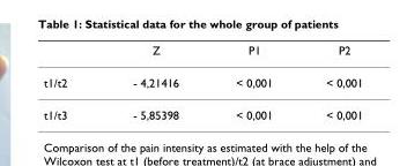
<table><thead><tr><td></td><td>Z</td><td>P1</td><td>P2</td></tr></thead><tbody><tr><td>t1/t2</td><td>- 4,21416</td><td>&lt; 0,001</td><td>&lt; 0,001</td></tr><tr><td>t1/t3</td><td>- 5,85398</td><td>&lt; 0,001</td><td>&lt; 0,001</td></tr></tbody></table>